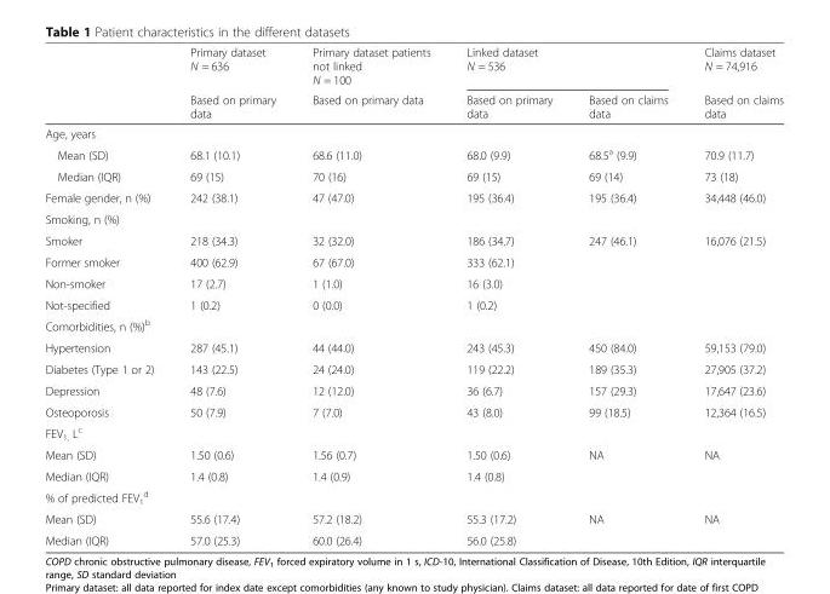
<table><thead><tr><td rowspan="2"></td><td rowspan="2">Primary dataset N = 636 Based on primary data</td><td rowspan="2">Primary dataset patients not linked N = 100 Based on primary data</td><td colspan="2">Linked dataset N = 536</td><td rowspan="2">Claims dataset N = 74,916 Based on claims data</td></tr><tr><td>Based on primary data</td><td>Based on claims data</td></tr></thead><tbody><tr><td colspan="6">Age, years</td></tr><tr><td>Mean (SD)</td><td>68.1 (10.1)</td><td>68.6 (11.0)</td><td>68.0 (9.9)</td><td>68.5<sup>a</sup> (9.9)</td><td>70.9 (11.7)</td></tr><tr><td>Median (IQR)</td><td>69 (15)</td><td>70 (16)</td><td>69 (15)</td><td>69 (14)</td><td>73 (18)</td></tr><tr><td>Female gender, n (%)</td><td>242 (38.1)</td><td>47 (47.0)</td><td>195 (36.4)</td><td>195 (36.4)</td><td>34,448 (46.0)</td></tr><tr><td colspan="6">Smoking, n (%)</td></tr><tr><td>Smoker</td><td>218 (34.3)</td><td>32 (32.0)</td><td>186 (34.7)</td><td>247 (46.1)</td><td>16,076 (21.5)</td></tr><tr><td>Former smoker</td><td>400 (62.9)</td><td>67 (67.0)</td><td>333 (62.1)</td><td></td><td></td></tr><tr><td>Non-smoker</td><td>17 (2.7)</td><td>1 (1.0)</td><td>16 (3.0)</td><td></td><td></td></tr><tr><td>Not-specified</td><td>1 (0.2)</td><td>0 (0.0)</td><td>1 (0.2)</td><td></td><td></td></tr><tr><td colspan="6">Comorbidities, n (%)<sup>b</sup></td></tr><tr><td>Hypertension</td><td>287 (45.1)</td><td>44 (44.0)</td><td>243 (45.3)</td><td>450 (84.0)</td><td>59,153 (79.0)</td></tr><tr><td>Diabetes (Type 1 or 2)</td><td>143 (22.5)</td><td>24 (24.0)</td><td>119 (22.2)</td><td>189 (35.3)</td><td>27,905 (37.2)</td></tr><tr><td>Depression</td><td>48 (7.6)</td><td>12 (12.0)</td><td>36 (6.7)</td><td>157 (29.3)</td><td>17,647 (23.6)</td></tr><tr><td>Osteoporosis</td><td>50 (7.9)</td><td>7 (7.0)</td><td>43 (8.0)</td><td>99 (18.5)</td><td>12,364 (16.5)</td></tr><tr><td colspan="6">FEV<sub>1,</sub> L<sup>c</sup></td></tr><tr><td>Mean (SD)</td><td>1.50 (0.6)</td><td>1.56 (0.7)</td><td>1.50 (0.6)</td><td>NA</td><td>NA</td></tr><tr><td>Median (IQR)</td><td>1.4 (0.8)</td><td>1.4 (0.9)</td><td>1.4 (0.8)</td><td></td><td></td></tr><tr><td colspan="6">% of predicted FEV<sub>1</sub> <sup>d</sup></td></tr><tr><td>Mean (SD)</td><td>55.6 (17.4)</td><td>57.2 (18.2)</td><td>55.3 (17.2)</td><td>NA</td><td>NA</td></tr><tr><td>Median (IQR)</td><td>57.0 (25.3)</td><td>60.0 (26.4)</td><td>56.0 (25.8)</td><td></td><td></td></tr></tbody></table>